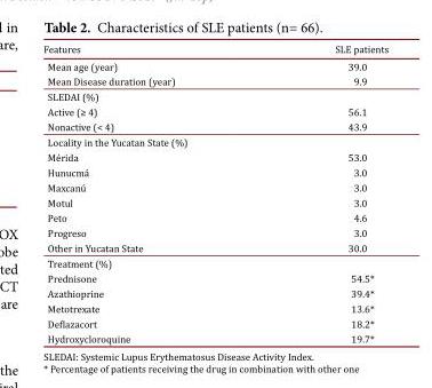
<table><thead><tr><td>Features</td><td>SLE patients</td></tr></thead><tbody><tr><td>Mean age (year)</td><td>39.0</td></tr><tr><td>Mean Disease duration (year)</td><td>9.9</td></tr><tr><td colspan="2">SLEDAI (%)</td></tr><tr><td>Active (≥ 4)</td><td>56.1</td></tr><tr><td>Nonactive (&lt; 4)</td><td>43.9</td></tr><tr><td colspan="2">Locality in the Yucatan State (%)</td></tr><tr><td>Mérida</td><td>53.0</td></tr><tr><td>Hunucmá</td><td>3.0</td></tr><tr><td>Maxcanú</td><td>3.0</td></tr><tr><td>Motul</td><td>3.0</td></tr><tr><td>Peto</td><td>4.6</td></tr><tr><td>Progreso</td><td>3.0</td></tr><tr><td>Other in Yucatan State</td><td>30.0</td></tr><tr><td colspan="2">Treatment (%)</td></tr><tr><td>Prednisone</td><td>54.5*</td></tr><tr><td>Azathioprine</td><td>39.4*</td></tr><tr><td>Metotrexate</td><td>13.6*</td></tr><tr><td>Deflazacort</td><td>18.2*</td></tr><tr><td>Hydroxycloroquine</td><td>19.7*</td></tr></tbody></table>